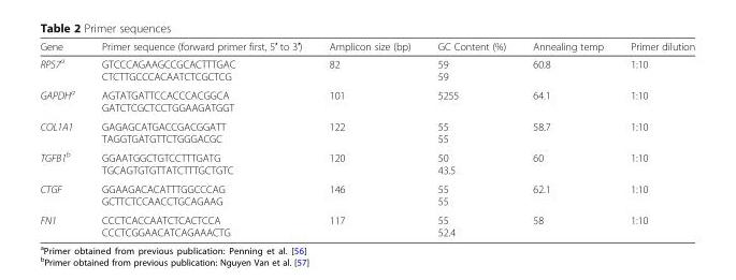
<table><thead><tr><td>Gene</td><td>Primer sequence (forward primer first, 5′ to 3′)</td><td>Amplicon size (bp)</td><td>GC Content (%)</td><td>Annealing temp</td><td>Primer dilution</td></tr></thead><tbody><tr><td>RPS7<sup>a</sup></td><td>GTCCCAGAAGCCGCACTTTGAC CTCTTGCCCACAATCTCGCTCG</td><td>82</td><td>59 59</td><td>60.8</td><td>1:10</td></tr><tr><td>GAPDH<sup>a</sup></td><td>AGTATGATTCCACCCACGGCA GATCTCGCTCCTGGAAGATGGT</td><td>101</td><td>5255</td><td>64.1</td><td>1:10</td></tr><tr><td>COL1A1</td><td>GAGAGCATGACCGACGGATT TAGGTGATGTTCTGGGACGC</td><td>122</td><td>55 55</td><td>58.7</td><td>1:10</td></tr><tr><td>TGFB1<sup>b</sup></td><td>GGAATGGCTGTCCTTTGATG TGCAGTGTGTTATCTTTGCTGTC</td><td>120</td><td>50 43.5</td><td>60</td><td>1:10</td></tr><tr><td>CTGF</td><td>GGAAGACACATTTGGCCCAG GCTTCTCCAACCTGCAGAAG</td><td>146</td><td>55 55</td><td>62.1</td><td>1:10</td></tr><tr><td>FN1</td><td>CCCTCACCAATCTCACTCCA CCCTCGGAACATCAGAAACTG</td><td>117</td><td>55 52.4</td><td>58</td><td>1:10</td></tr></tbody></table>